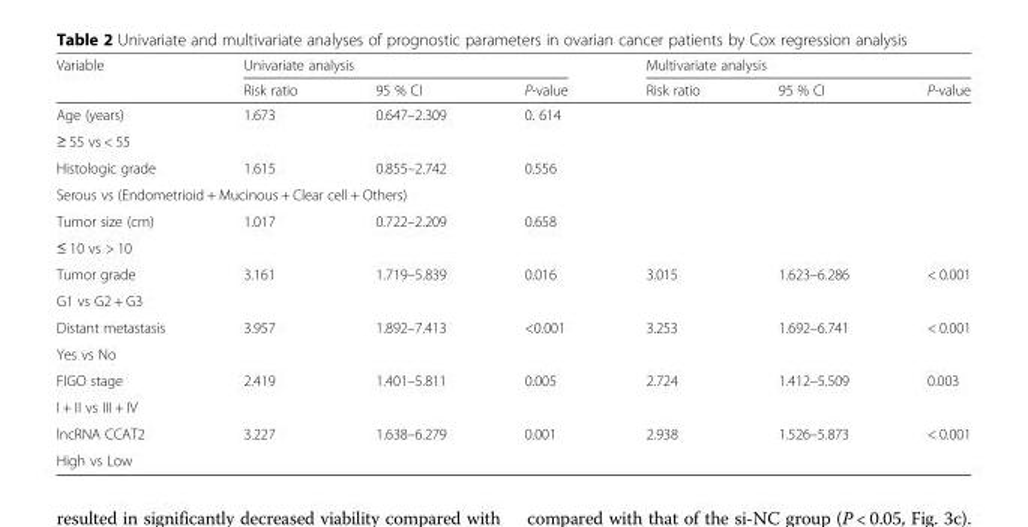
<table><thead><tr><td rowspan="2">Variable</td><td colspan="3">Univariate analysis</td><td colspan="3">Multivariate analysis</td></tr><tr><td>Risk ratio</td><td>95 % CI</td><td>P-value</td><td>Risk ratio</td><td>95 % CI</td><td>P-value</td></tr></thead><tbody><tr><td>Age (years)</td><td>1.673</td><td>0.647–2.309</td><td>0. 614</td><td></td><td></td><td></td></tr><tr><td colspan="7">≥ 55 vs &lt; 55</td></tr><tr><td>Histologic grade</td><td>1.615</td><td>0.855–2.742</td><td>0.556</td><td></td><td></td><td></td></tr><tr><td colspan="7">Serous vs (Endometrioid + Mucinous + Clear cell + Others)</td></tr><tr><td>Tumor size (cm)</td><td>1.017</td><td>0.722–2.209</td><td>0.658</td><td></td><td></td><td></td></tr><tr><td colspan="7">≤ 10 vs &gt; 10</td></tr><tr><td>Tumor grade</td><td>3.161</td><td>1.719–5.839</td><td>0.016</td><td>3.015</td><td>1.623–6.286</td><td>&lt; 0.001</td></tr><tr><td colspan="7">G1 vs G2 + G3</td></tr><tr><td>Distant metastasis</td><td>3.957</td><td>1.892–7.413</td><td>&lt;0.001</td><td>3.253</td><td>1.692–6.741</td><td>&lt; 0.001</td></tr><tr><td colspan="7">Yes vs No</td></tr><tr><td>FIGO stage</td><td>2.419</td><td>1.401–5.811</td><td>0.005</td><td>2.724</td><td>1.412–5.509</td><td>0.003</td></tr><tr><td colspan="7">I + II vs III + IV</td></tr><tr><td>lncRNA CCAT2</td><td>3.227</td><td>1.638–6.279</td><td>0.001</td><td>2.938</td><td>1.526–5.873</td><td>&lt; 0.001</td></tr><tr><td colspan="7">High vs Low</td></tr></tbody></table>